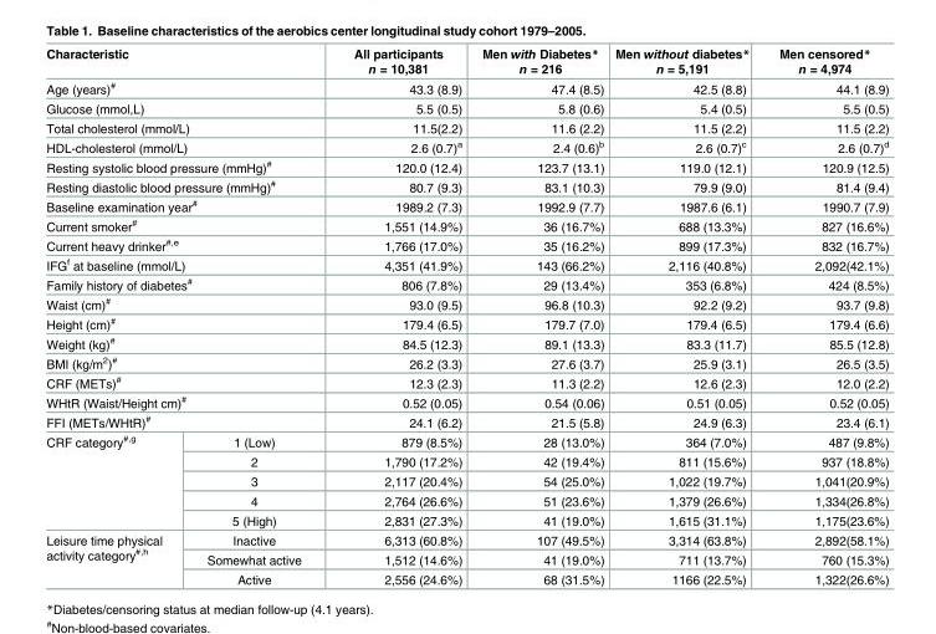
<table><thead><tr><td colspan="2">Characteristic</td><td>All participants n = 10,381</td><td>Men with Diabetes* n = 216</td><td>Men without diabetes* n = 5,191</td><td>Men censored* n = 4,974</td></tr></thead><tbody><tr><td colspan="2">Age (years)<sup>#</sup></td><td>43.3 (8.9)</td><td>47.4 (8.5)</td><td>42.5 (8.8)</td><td>44.1 (8.9)</td></tr><tr><td colspan="2">Glucose (mmol,L)</td><td>5.5 (0.5)</td><td>5.8 (0.6)</td><td>5.4 (0.5)</td><td>5.5 (0.5)</td></tr><tr><td colspan="2">Total cholesterol (mmol/L)</td><td>11.5(2.2)</td><td>11.6 (2.2)</td><td>11.5 (2.2)</td><td>11.5 (2.2)</td></tr><tr><td colspan="2">HDL-cholesterol (mmol/L)</td><td>2.6 (0.7)<sup>a</sup></td><td>2.4 (0.6)<sup>b</sup></td><td>2.6 (0.7)<sup>c</sup></td><td>2.6 (0.7)<sup>d</sup></td></tr><tr><td colspan="2">Resting systolic blood pressure (mmHg)<sup>#</sup></td><td>120.0 (12.4)</td><td>123.7 (13.1)</td><td>119.0 (12.1)</td><td>120.9 (12.5)</td></tr><tr><td colspan="2">Resting diastolic blood pressure (mmHg)<sup>#</sup></td><td>80.7 (9.3)</td><td>83.1 (10.3)</td><td>79.9 (9.0)</td><td>81.4 (9.4)</td></tr><tr><td colspan="2">Baseline examination year<sup>#</sup></td><td>1989.2 (7.3)</td><td>1992.9 (7.7)</td><td>1987.6 (6.1)</td><td>1990.7 (7.9)</td></tr><tr><td colspan="2">Current smoker<sup>#</sup></td><td>1,551 (14.9%)</td><td>36 (16.7%)</td><td>688 (13.3%)</td><td>827 (16.6%)</td></tr><tr><td colspan="2">Current heavy drinker<sup>#,e</sup></td><td>1,766 (17.0%)</td><td>35 (16.2%)</td><td>899 (17.3%)</td><td>832 (16.7%)</td></tr><tr><td colspan="2">IFG<sup>f</sup> at baseline (mmol/L)</td><td>4,351 (41.9%)</td><td>143 (66.2%)</td><td>2,116 (40.8%)</td><td>2,092(42.1%)</td></tr><tr><td colspan="2">Family history of diabetes<sup>#</sup></td><td>806 (7.8%)</td><td>29 (13.4%)</td><td>353 (6.8%)</td><td>424 (8.5%)</td></tr><tr><td colspan="2">Waist (cm)<sup>#</sup></td><td>93.0 (9.5)</td><td>96.8 (10.3)</td><td>92.2 (9.2)</td><td>93.7 (9.8)</td></tr><tr><td colspan="2">Height (cm)<sup>#</sup></td><td>179.4 (6.5)</td><td>179.7 (7.0)</td><td>179.4 (6.5)</td><td>179.4 (6.6)</td></tr><tr><td colspan="2">Weight (kg)<sup>#</sup></td><td>84.5 (12.3)</td><td>89.1 (13.3)</td><td>83.3 (11.7)</td><td>85.5 (12.8)</td></tr><tr><td colspan="2">BMI (kg/m<sup>2</sup>)<sup>#</sup></td><td>26.2 (3.3)</td><td>27.6 (3.7)</td><td>25.9 (3.1)</td><td>26.5 (3.5)</td></tr><tr><td colspan="2">CRF (METs)<sup>#</sup></td><td>12.3 (2.3)</td><td>11.3 (2.2)</td><td>12.6 (2.3)</td><td>12.0 (2.2)</td></tr><tr><td colspan="2">WHtR (Waist/Height cm)<sup>#</sup></td><td>0.52 (0.05)</td><td>0.54 (0.06)</td><td>0.51 (0.05)</td><td>0.52 (0.05)</td></tr><tr><td colspan="2">FFI (METs/WHtR)<sup>#</sup></td><td>24.1 (6.2)</td><td>21.5 (5.8)</td><td>24.9 (6.3)</td><td>23.4 (6.1)</td></tr><tr><td rowspan="5">CRF category<sup>#,g</sup></td><td>1 (Low)</td><td>879 (8.5%)</td><td>28 (13.0%)</td><td>364 (7.0%)</td><td>487 (9.8%)</td></tr><tr><td>2</td><td>1,790 (17.2%)</td><td>42 (19.4%)</td><td>811 (15.6%)</td><td>937 (18.8%)</td></tr><tr><td>3</td><td>2,117 (20.4%)</td><td>54 (25.0%)</td><td>1,022 (19.7%)</td><td>1,041(20.9%)</td></tr><tr><td>4</td><td>2,764 (26.6%)</td><td>51 (23.6%)</td><td>1,379 (26.6%)</td><td>1,334(26.8%)</td></tr><tr><td>5 (High)</td><td>2,831 (27.3%)</td><td>41 (19.0%)</td><td>1,615 (31.1%)</td><td>1,175(23.6%)</td></tr><tr><td rowspan="3">Leisure time physical activity category<sup>#,h</sup></td><td>Inactive</td><td>6,313 (60.8%)</td><td>107 (49.5%)</td><td>3,314 (63.8%)</td><td>2,892(58.1%)</td></tr><tr><td>Somewhat active</td><td>1,512 (14.6%)</td><td>41 (19.0%)</td><td>711 (13.7%)</td><td>760 (15.3%)</td></tr><tr><td>Active</td><td>2,556 (24.6%)</td><td>68 (31.5%)</td><td>1166 (22.5%)</td><td>1,322(26.6%)</td></tr></tbody></table>